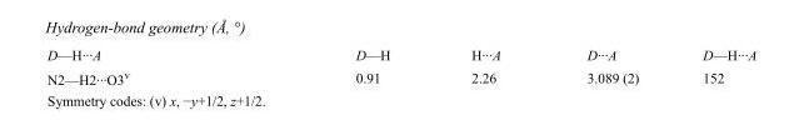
<table><tbody><tr><td>D—H···A</td><td>D—H</td><td>H···A</td><td>D···A</td><td>D—H···A</td></tr><tr><td>N2—H2···O3<sup>v</sup></td><td>0.91</td><td>2.26</td><td>3.089 (2)</td><td>152</td></tr></tbody></table>